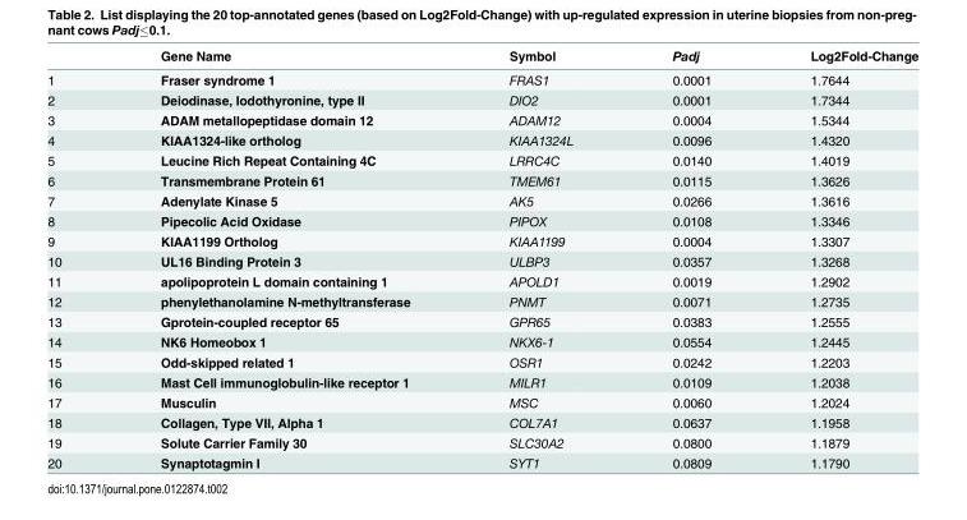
<table><thead><tr><td></td><td>Gene Name</td><td>Symbol</td><td>Padj</td><td>Log2Fold-Change</td></tr></thead><tbody><tr><td>1</td><td>Fraser syndrome 1</td><td>FRAS1</td><td>0.0001</td><td>1.7644</td></tr><tr><td>2</td><td>Deiodinase, Iodothyronine, type II</td><td>DIO2</td><td>0.0001</td><td>1.7344</td></tr><tr><td>3</td><td>ADAM metallopeptidase domain 12</td><td>ADAM12</td><td>0.0004</td><td>1.5344</td></tr><tr><td>4</td><td>KIAA1324-like ortholog</td><td>KIAA1324L</td><td>0.0096</td><td>1.4320</td></tr><tr><td>5</td><td>Leucine Rich Repeat Containing 4C</td><td>LRRC4C</td><td>0.0140</td><td>1.4019</td></tr><tr><td>6</td><td>Transmembrane Protein 61</td><td>TMEM61</td><td>0.0115</td><td>1.3626</td></tr><tr><td>7</td><td>Adenylate Kinase 5</td><td>AK5</td><td>0.0266</td><td>1.3616</td></tr><tr><td>8</td><td>Pipecolic Acid Oxidase</td><td>PIPOX</td><td>0.0108</td><td>1.3346</td></tr><tr><td>9</td><td>KIAA1199 Ortholog</td><td>KIAA1199</td><td>0.0004</td><td>1.3307</td></tr><tr><td>10</td><td>UL16 Binding Protein 3</td><td>ULBP3</td><td>0.0357</td><td>1.3268</td></tr><tr><td>11</td><td>apolipoprotein L domain containing 1</td><td>APOLD1</td><td>0.0019</td><td>1.2902</td></tr><tr><td>12</td><td>phenylethanolamine N-methyltransferase</td><td>PNMT</td><td>0.0071</td><td>1.2735</td></tr><tr><td>13</td><td>Gprotein-coupled receptor 65</td><td>GPR65</td><td>0.0383</td><td>1.2555</td></tr><tr><td>14</td><td>NK6 Homeobox 1</td><td>NKX6-1</td><td>0.0554</td><td>1.2445</td></tr><tr><td>15</td><td>Odd-skipped related 1</td><td>OSR1</td><td>0.0242</td><td>1.2203</td></tr><tr><td>16</td><td>Mast Cell immunoglobulin-like receptor 1</td><td>MILR1</td><td>0.0109</td><td>1.2038</td></tr><tr><td>17</td><td>Musculin</td><td>MSC</td><td>0.0060</td><td>1.2024</td></tr><tr><td>18</td><td>Collagen, Type VII, Alpha 1</td><td>COL7A1</td><td>0.0637</td><td>1.1958</td></tr><tr><td>19</td><td>Solute Carrier Family 30</td><td>SLC30A2</td><td>0.0800</td><td>1.1879</td></tr><tr><td>20</td><td>Synaptotagmin I</td><td>SYT1</td><td>0.0809</td><td>1.1790</td></tr></tbody></table>